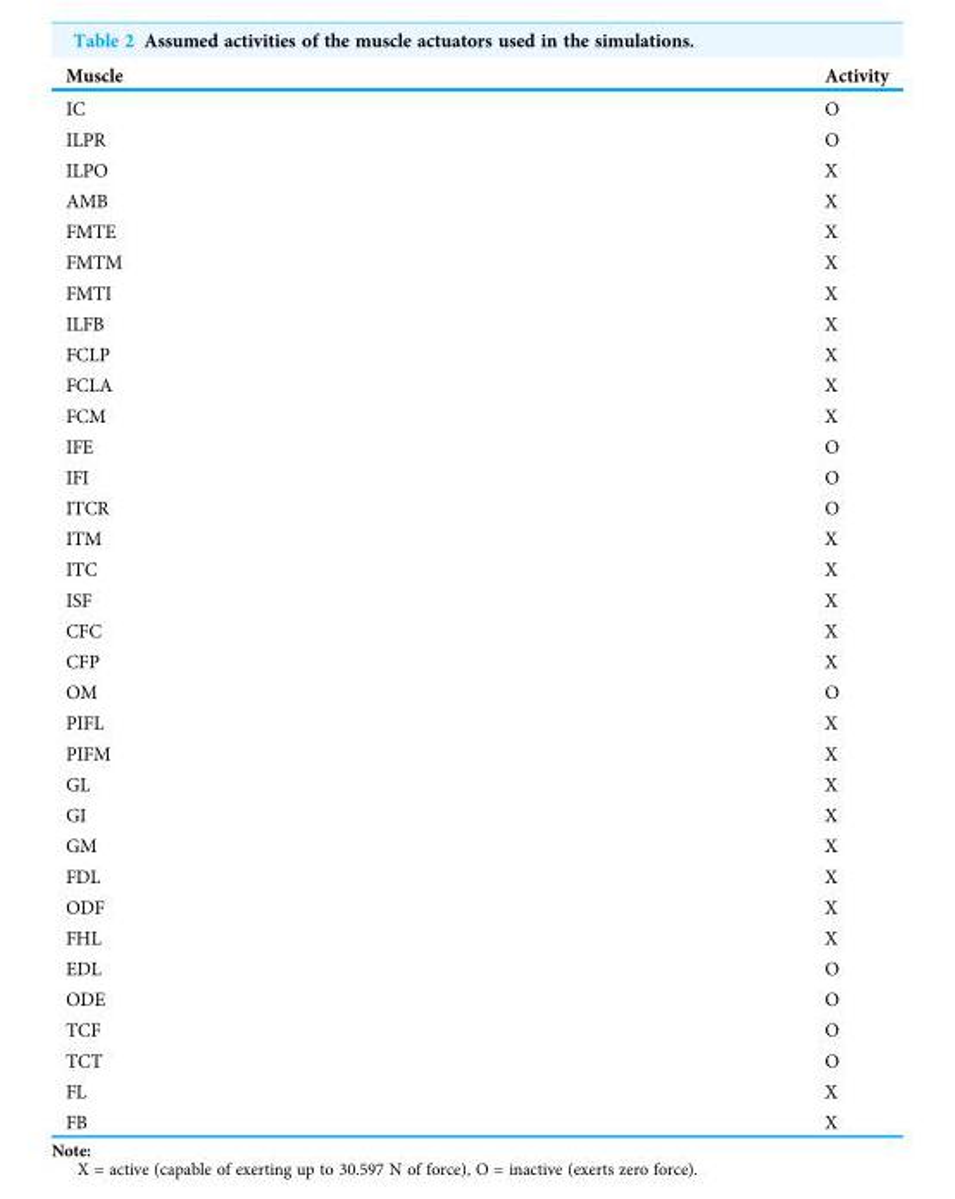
<table><thead><tr><td>Muscle</td><td>Activity</td></tr></thead><tbody><tr><td>IC</td><td>O</td></tr><tr><td>ILPR</td><td>O</td></tr><tr><td>ILPO</td><td>X</td></tr><tr><td>AMB</td><td>X</td></tr><tr><td>FMTE</td><td>X</td></tr><tr><td>FMTM</td><td>X</td></tr><tr><td>FMTI</td><td>X</td></tr><tr><td>ILFB</td><td>X</td></tr><tr><td>FCLP</td><td>X</td></tr><tr><td>FCLA</td><td>X</td></tr><tr><td>FCM</td><td>X</td></tr><tr><td>IFE</td><td>O</td></tr><tr><td>IFI</td><td>O</td></tr><tr><td>ITCR</td><td>O</td></tr><tr><td>ITM</td><td>X</td></tr><tr><td>ITC</td><td>X</td></tr><tr><td>ISF</td><td>X</td></tr><tr><td>CFC</td><td>X</td></tr><tr><td>CFP</td><td>X</td></tr><tr><td>OM</td><td>O</td></tr><tr><td>PIFL</td><td>X</td></tr><tr><td>PIFM</td><td>X</td></tr><tr><td>GL</td><td>X</td></tr><tr><td>GI</td><td>X</td></tr><tr><td>GM</td><td>X</td></tr><tr><td>FDL</td><td>X</td></tr><tr><td>ODF</td><td>X</td></tr><tr><td>FHL</td><td>X</td></tr><tr><td>EDL</td><td>O</td></tr><tr><td>ODE</td><td>O</td></tr><tr><td>TCF</td><td>O</td></tr><tr><td>TCT</td><td>O</td></tr><tr><td>FL</td><td>X</td></tr><tr><td>FB</td><td>X</td></tr></tbody></table>